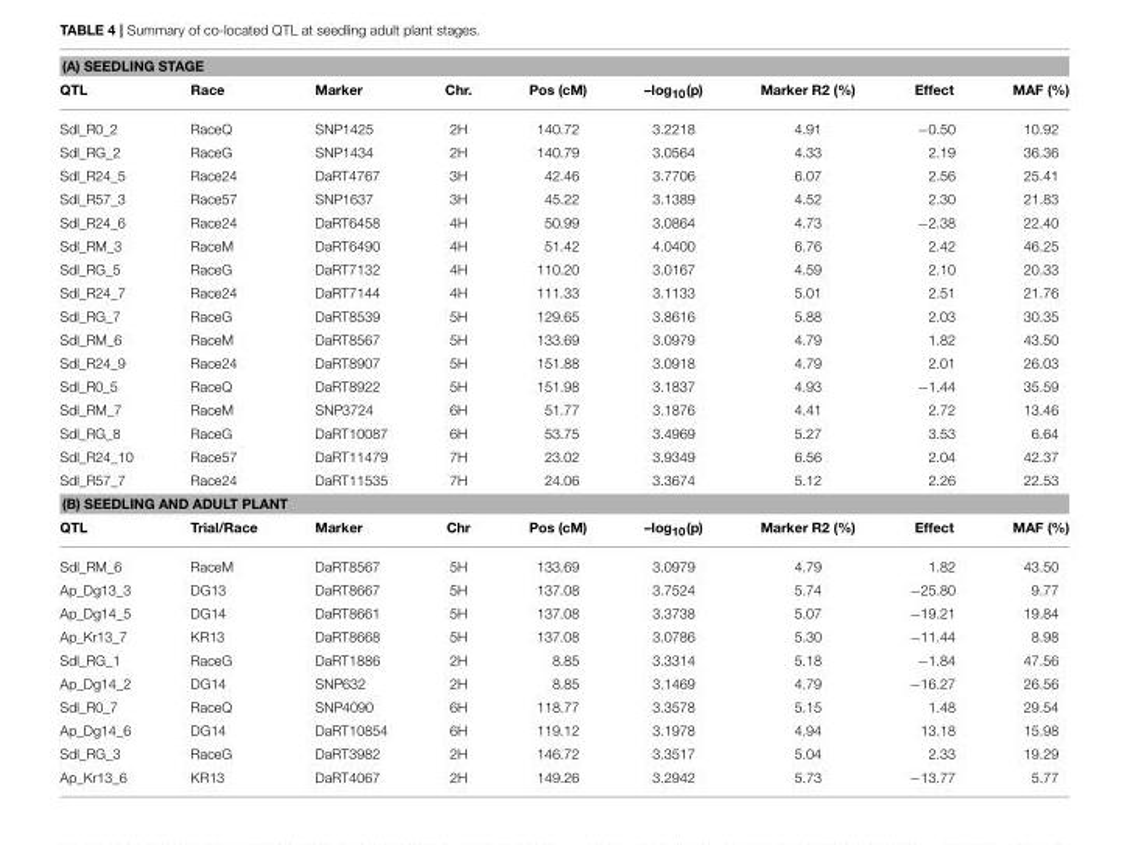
<table><thead><tr><td colspan="9">(A) SEEDLING STAGE</td></tr><tr><td>QTL</td><td>Race</td><td>Marker</td><td>Chr.</td><td>Pos (cM)</td><td>–log<sub>10</sub>(p)</td><td>Marker R2 (%)</td><td>Effect</td><td>MAF (%)</td></tr></thead><tbody><tr><td>Sdl_R0_2</td><td>RaceQ</td><td>SNP1425</td><td>2H</td><td>140.72</td><td>3.2218</td><td>4.91</td><td>−0.50</td><td>10.92</td></tr><tr><td>Sdl_RG_2</td><td>RaceG</td><td>SNP1434</td><td>2H</td><td>140.79</td><td>3.0564</td><td>4.33</td><td>2.19</td><td>36.36</td></tr><tr><td>Sdl_R24_5</td><td>Race24</td><td>DaRT4767</td><td>3H</td><td>42.46</td><td>3.7706</td><td>6.07</td><td>2.56</td><td>25.41</td></tr><tr><td>Sdl_R57_3</td><td>Race57</td><td>SNP1637</td><td>3H</td><td>45.22</td><td>3.1389</td><td>4.52</td><td>2.30</td><td>21.83</td></tr><tr><td>Sdl_R24_6</td><td>Race24</td><td>DaRT6458</td><td>4H</td><td>50.99</td><td>3.0864</td><td>4.73</td><td>−2.38</td><td>22.40</td></tr><tr><td>Sdl_RM_3</td><td>RaceM</td><td>DaRT6490</td><td>4H</td><td>51.42</td><td>4.0400</td><td>6.76</td><td>2.42</td><td>46.25</td></tr><tr><td>Sdl_RG_5</td><td>RaceG</td><td>DaRT7132</td><td>4H</td><td>110.20</td><td>3.0167</td><td>4.59</td><td>2.10</td><td>20.33</td></tr><tr><td>Sdl_R24_7</td><td>Race24</td><td>DaRT7144</td><td>4H</td><td>111.33</td><td>3.1133</td><td>5.01</td><td>2.51</td><td>21.76</td></tr><tr><td>Sdl_RG_7</td><td>RaceG</td><td>DaRT8539</td><td>5H</td><td>129.65</td><td>3.8616</td><td>5.88</td><td>2.03</td><td>30.35</td></tr><tr><td>Sdl_RM_6</td><td>RaceM</td><td>DaRT8567</td><td>5H</td><td>133.69</td><td>3.0979</td><td>4.79</td><td>1.82</td><td>43.50</td></tr><tr><td>Sdl_R24_9</td><td>Race24</td><td>DaRT8907</td><td>5H</td><td>151.88</td><td>3.0918</td><td>4.79</td><td>2.01</td><td>26.03</td></tr><tr><td>Sdl_R0_5</td><td>RaceQ</td><td>DaRT8922</td><td>5H</td><td>151.98</td><td>3.1837</td><td>4.93</td><td>−1.44</td><td>35.59</td></tr><tr><td>Sdl_RM_7</td><td>RaceM</td><td>SNP3724</td><td>6H</td><td>51.77</td><td>3.1876</td><td>4.41</td><td>2.72</td><td>13.46</td></tr><tr><td>Sdl_RG_8</td><td>RaceG</td><td>DaRT10087</td><td>6H</td><td>53.75</td><td>3.4969</td><td>5.27</td><td>3.53</td><td>6.64</td></tr><tr><td>Sdl_R24_10</td><td>Race57</td><td>DaRT11479</td><td>7H</td><td>23.02</td><td>3.9349</td><td>6.56</td><td>2.04</td><td>42.37</td></tr><tr><td>Sdl_R57_7</td><td>Race24</td><td>DaRT11535</td><td>7H</td><td>24.06</td><td>3.3674</td><td>5.12</td><td>2.26</td><td>22.53</td></tr><tr><td colspan="9">(B) SEEDLING AND ADULT PLANT</td></tr><tr><td>QTL</td><td>Trial/Race</td><td>Marker</td><td>Chr</td><td>Pos (cM)</td><td>–log<sub>10</sub>(p)</td><td>Marker R2 (%)</td><td>Effect</td><td>MAF (%)</td></tr><tr><td>Sdl_RM_6</td><td>RaceM</td><td>DaRT8567</td><td>5H</td><td>133.69</td><td>3.0979</td><td>4.79</td><td>1.82</td><td>43.50</td></tr><tr><td>Ap_Dg13_3</td><td>DG13</td><td>DaRT8667</td><td>5H</td><td>137.08</td><td>3.7524</td><td>5.74</td><td>−25.80</td><td>9.77</td></tr><tr><td>Ap_Dg14_5</td><td>DG14</td><td>DaRT8661</td><td>5H</td><td>137.08</td><td>3.3738</td><td>5.07</td><td>−19.21</td><td>19.84</td></tr><tr><td>Ap_Kr13_7</td><td>KR13</td><td>DaRT8668</td><td>5H</td><td>137.08</td><td>3.0786</td><td>5.30</td><td>−11.44</td><td>8.98</td></tr><tr><td>Sdl_RG_1</td><td>RaceG</td><td>DaRT1886</td><td>2H</td><td>8.85</td><td>3.3314</td><td>5.18</td><td>−1.84</td><td>47.56</td></tr><tr><td>Ap_Dg14_2</td><td>DG14</td><td>SNP632</td><td>2H</td><td>8.85</td><td>3.1469</td><td>4.79</td><td>−16.27</td><td>26.56</td></tr><tr><td>Sdl_R0_7</td><td>RaceQ</td><td>SNP4090</td><td>6H</td><td>118.77</td><td>3.3578</td><td>5.15</td><td>1.48</td><td>29.54</td></tr><tr><td>Ap_Dg14_6</td><td>DG14</td><td>DaRT10854</td><td>6H</td><td>119.12</td><td>3.1978</td><td>4.94</td><td>13.18</td><td>15.98</td></tr><tr><td>Sdl_RG_3</td><td>RaceG</td><td>DaRT3982</td><td>2H</td><td>146.72</td><td>3.3517</td><td>5.04</td><td>2.33</td><td>19.29</td></tr><tr><td>Ap_Kr13_6</td><td>KR13</td><td>DaRT4067</td><td>2H</td><td>149.26</td><td>3.2942</td><td>5.73</td><td>−13.77</td><td>5.77</td></tr></tbody></table>